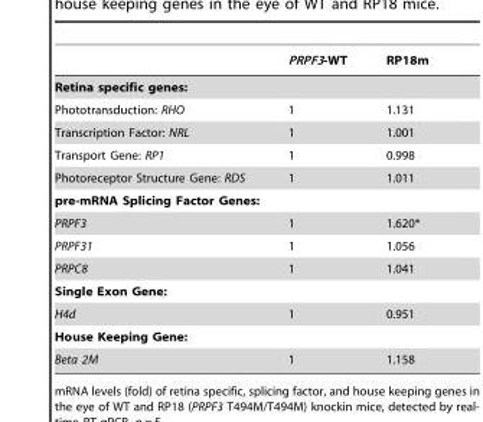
<table><thead><tr><td></td><td>PRPF3-WT</td><td>RP18m</td></tr></thead><tbody><tr><td colspan="3">Retina specific genes:</td></tr><tr><td>Phototransduction: RHO</td><td>1</td><td>1.131</td></tr><tr><td>Transcription Factor: NRL</td><td>1</td><td>1.001</td></tr><tr><td>Transport Gene: RP1</td><td>1</td><td>0.998</td></tr><tr><td>Photoreceptor Structure Gene: RDS</td><td>1</td><td>1.011</td></tr><tr><td colspan="3">pre-mRNA Splicing Factor Genes:</td></tr><tr><td>PRPF3</td><td>1</td><td>1.620*</td></tr><tr><td>PRPF31</td><td>1</td><td>1.056</td></tr><tr><td>PRPC8</td><td>1</td><td>1.041</td></tr><tr><td colspan="3">Single Exon Gene:</td></tr><tr><td>H4d</td><td>1</td><td>0.951</td></tr><tr><td colspan="3">House Keeping Gene:</td></tr><tr><td>Beta 2M</td><td>1</td><td>1.158</td></tr></tbody></table>